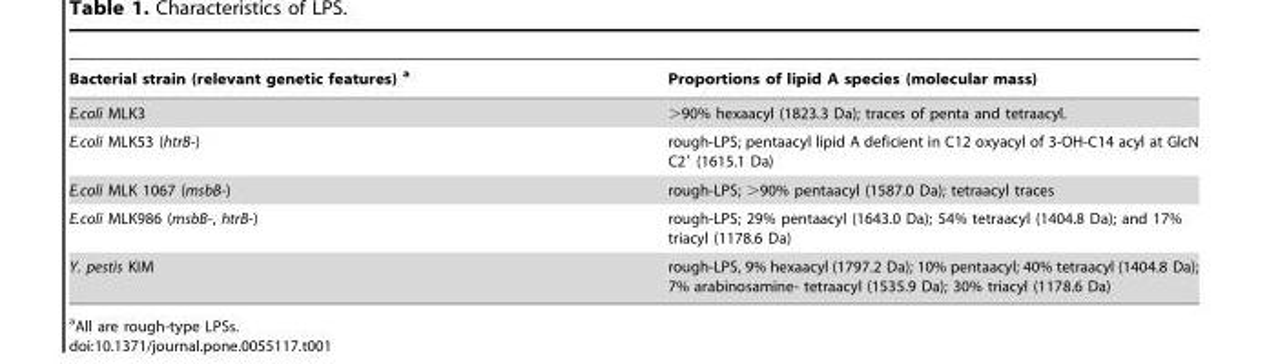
<table><thead><tr><td>Bacterial strain (relevant genetic features) a</td><td>Proportions of lipid A species (molecular mass)</td></tr></thead><tbody><tr><td>E.coli MLK3</td><td>&gt;90% hexaacyl (1823.3 Da); traces of penta and tetraacyl.</td></tr><tr><td>E.coli MLK53 (htrB-)</td><td>rough-LPS; pentaacyl lipid A deficient in C12 oxyacyl of 3-OH-C14 acyl at GlcN C2′ (1615.1 Da)</td></tr><tr><td>E.coli MLK 1067 (msbB-)</td><td>rough-LPS; &gt;90% pentaacyl (1587.0 Da); tetraacyl traces</td></tr><tr><td>E.coli MLK986 (msbB-, htrB-)</td><td>rough-LPS; 29% pentaacyl (1643.0 Da); 54% tetraacyl (1404.8 Da); and 17% triacyl (1178.6 Da)</td></tr><tr><td>Y. pestis KIM</td><td>rough-LPS, 9% hexaacyl (1797.2 Da); 10% pentaacyl; 40% tetraacyl (1404.8 Da); 7% arabinosamine- tetraacyl (1535.9 Da); 30% triacyl (1178.6 Da)</td></tr></tbody></table>